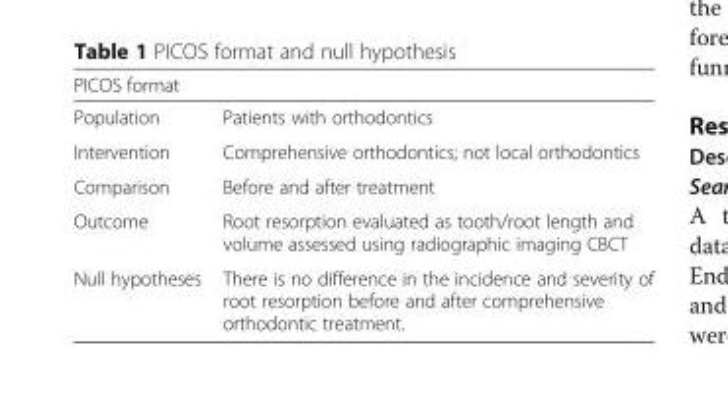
<table><thead><tr><td colspan="2">PICOS format</td></tr><tr><td>Population</td><td>Patients with orthodontics</td></tr></thead><tbody><tr><td>Intervention</td><td>Comprehensive orthodontics; not local orthodontics</td></tr><tr><td>Comparison</td><td>Before and after treatment</td></tr><tr><td>Outcome</td><td>Root resorption evaluated as tooth/root length and volume assessed using radiographic imaging CBCT</td></tr><tr><td>Null hypotheses</td><td>There is no difference in the incidence and severity of root resorption before and after comprehensive orthodontic treatment.</td></tr></tbody></table>